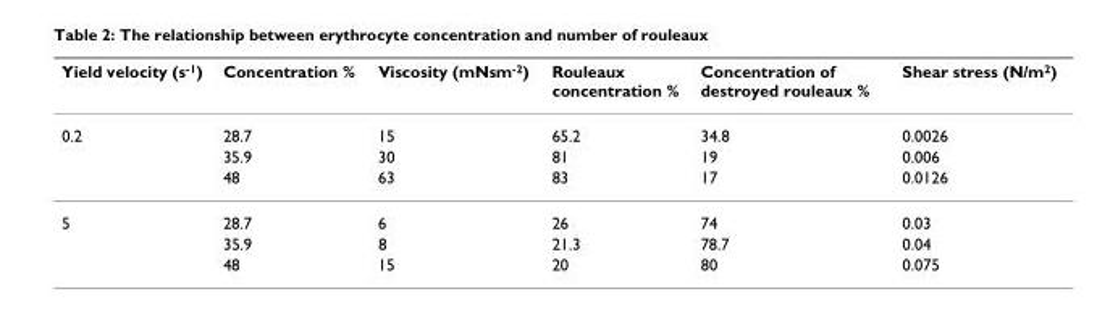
<table><thead><tr><td>Yield velocity (s<sup>-1</sup>)</td><td>Concentration %</td><td>Viscosity (mNsm<sup>-2</sup>)</td><td>Rouleaux concentration %</td><td>Concentration of destroyed rouleaux %</td><td>Shear stress (N/m<sup>2</sup>)</td></tr></thead><tbody><tr><td rowspan="3">0.2</td><td>28.7</td><td>15</td><td>65.2</td><td>34.8</td><td>0.0026</td></tr><tr><td>35.9</td><td>30</td><td>81</td><td>19</td><td>0.006</td></tr><tr><td>48</td><td>63</td><td>83</td><td>17</td><td>0.0126</td></tr><tr><td rowspan="3">5</td><td>28.7</td><td>6</td><td>26</td><td>74</td><td>0.03</td></tr><tr><td>35.9</td><td>8</td><td>21.3</td><td>78.7</td><td>0.04</td></tr><tr><td>48</td><td>15</td><td>20</td><td>80</td><td>0.075</td></tr></tbody></table>